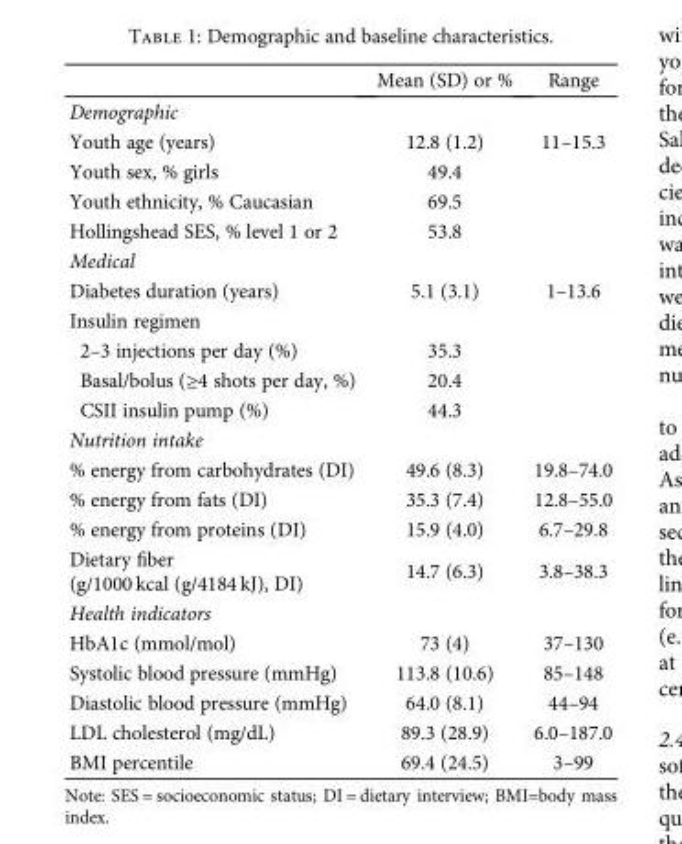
<table><thead><tr><td></td><td>Mean (SD) or %</td><td>Range</td></tr></thead><tbody><tr><td colspan="3">Demographic</td></tr><tr><td>Youth age (years)</td><td>12.8 (1.2)</td><td>11–15.3</td></tr><tr><td>Youth sex, % girls</td><td>49.4</td><td></td></tr><tr><td>Youth ethnicity, % Caucasian</td><td>69.5</td><td></td></tr><tr><td>Hollingshead SES, % level 1 or 2</td><td>53.8</td><td></td></tr><tr><td colspan="3">Medical</td></tr><tr><td>Diabetes duration (years)</td><td>5.1 (3.1)</td><td>1–13.6</td></tr><tr><td colspan="3">Insulin regimen</td></tr><tr><td>2–3 injections per day (%)</td><td>35.3</td><td></td></tr><tr><td>Basal/bolus (≥4 shots per day, %)</td><td>20.4</td><td></td></tr><tr><td>CSII insulin pump (%)</td><td>44.3</td><td></td></tr><tr><td colspan="3">Nutrition intake</td></tr><tr><td>% energy from carbohydrates (DI)</td><td>49.6 (8.3)</td><td>19.8–74.0</td></tr><tr><td>% energy from fats (DI)</td><td>35.3 (7.4)</td><td>12.8–55.0</td></tr><tr><td>% energy from proteins (DI)</td><td>15.9 (4.0)</td><td>6.7–29.8</td></tr><tr><td>Dietary fiber (g/1000 kcal (g/4184 kJ), DI)</td><td>14.7 (6.3)</td><td>3.8–38.3</td></tr><tr><td colspan="3">Health indicators</td></tr><tr><td>HbA1c (mmol/mol)</td><td>73 (4)</td><td>37–130</td></tr><tr><td>Systolic blood pressure (mmHg)</td><td>113.8 (10.6)</td><td>85–148</td></tr><tr><td>Diastolic blood pressure (mmHg)</td><td>64.0 (8.1)</td><td>44–94</td></tr><tr><td>LDL cholesterol (mg/dL)</td><td>89.3 (28.9)</td><td>6.0–187.0</td></tr><tr><td>BMI percentile</td><td>69.4 (24.5)</td><td>3–99</td></tr></tbody></table>